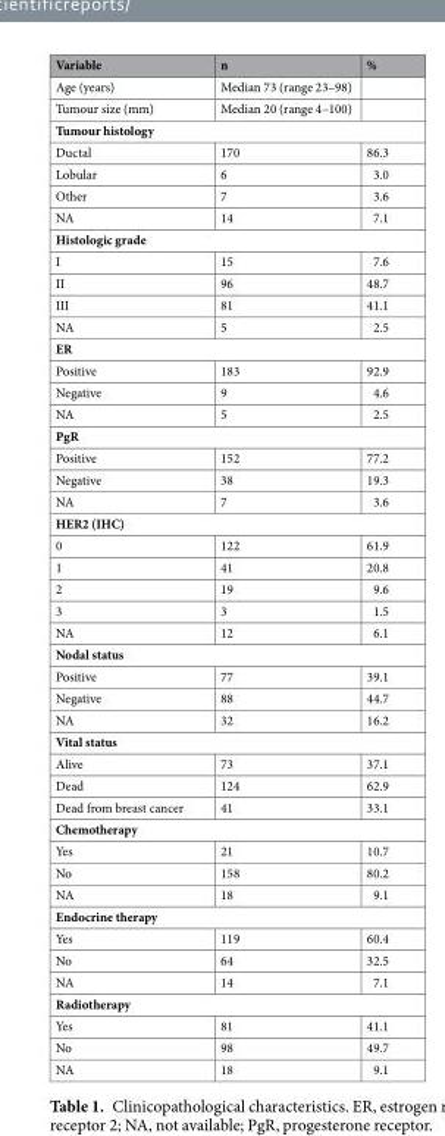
<table><thead><tr><td>Variable</td><td>n</td><td>%</td></tr></thead><tbody><tr><td>Age (years)</td><td>Median 73 (range 23–98)</td><td></td></tr><tr><td>Tumour size (mm)</td><td>Median 20 (range 4–100)</td><td></td></tr><tr><td colspan="3">Tumour histology</td></tr><tr><td>Ductal</td><td>170</td><td>86.3</td></tr><tr><td>Lobular</td><td>6</td><td>3.0</td></tr><tr><td>Other</td><td>7</td><td>3.6</td></tr><tr><td>NA</td><td>14</td><td>7.1</td></tr><tr><td colspan="3">Histologic grade</td></tr><tr><td>I</td><td>15</td><td>7.6</td></tr><tr><td>II</td><td>96</td><td>48.7</td></tr><tr><td>III</td><td>81</td><td>41.1</td></tr><tr><td>NA</td><td>5</td><td>2.5</td></tr><tr><td colspan="3">ER</td></tr><tr><td>Positive</td><td>183</td><td>92.9</td></tr><tr><td>Negative</td><td>9</td><td>4.6</td></tr><tr><td>NA</td><td>5</td><td>2.5</td></tr><tr><td colspan="3">PgR</td></tr><tr><td>Positive</td><td>152</td><td>77.2</td></tr><tr><td>Negative</td><td>38</td><td>19.3</td></tr><tr><td>NA</td><td>7</td><td>3.6</td></tr><tr><td colspan="3">HER2 (IHC)</td></tr><tr><td>0</td><td>122</td><td>61.9</td></tr><tr><td>1</td><td>41</td><td>20.8</td></tr><tr><td>2</td><td>19</td><td>9.6</td></tr><tr><td>3</td><td>3</td><td>1.5</td></tr><tr><td>NA</td><td>12</td><td>6.1</td></tr><tr><td colspan="3">Nodal status</td></tr><tr><td>Positive</td><td>77</td><td>39.1</td></tr><tr><td>Negative</td><td>88</td><td>44.7</td></tr><tr><td>NA</td><td>32</td><td>16.2</td></tr><tr><td colspan="3">Vital status</td></tr><tr><td>Alive</td><td>73</td><td>37.1</td></tr><tr><td>Dead</td><td>124</td><td>62.9</td></tr><tr><td>Dead from breast cancer</td><td>41</td><td>33.1</td></tr><tr><td colspan="3">Chemotherapy</td></tr><tr><td>Yes</td><td>21</td><td>10.7</td></tr><tr><td>No</td><td>158</td><td>80.2</td></tr><tr><td>NA</td><td>18</td><td>9.1</td></tr><tr><td colspan="3">Endocrine therapy</td></tr><tr><td>Yes</td><td>119</td><td>60.4</td></tr><tr><td>No</td><td>64</td><td>32.5</td></tr><tr><td>NA</td><td>14</td><td>7.1</td></tr><tr><td colspan="3">Radiotherapy</td></tr><tr><td>Yes</td><td>81</td><td>41.1</td></tr><tr><td>No</td><td>98</td><td>49.7</td></tr><tr><td>NA</td><td>18</td><td>9.1</td></tr></tbody></table>